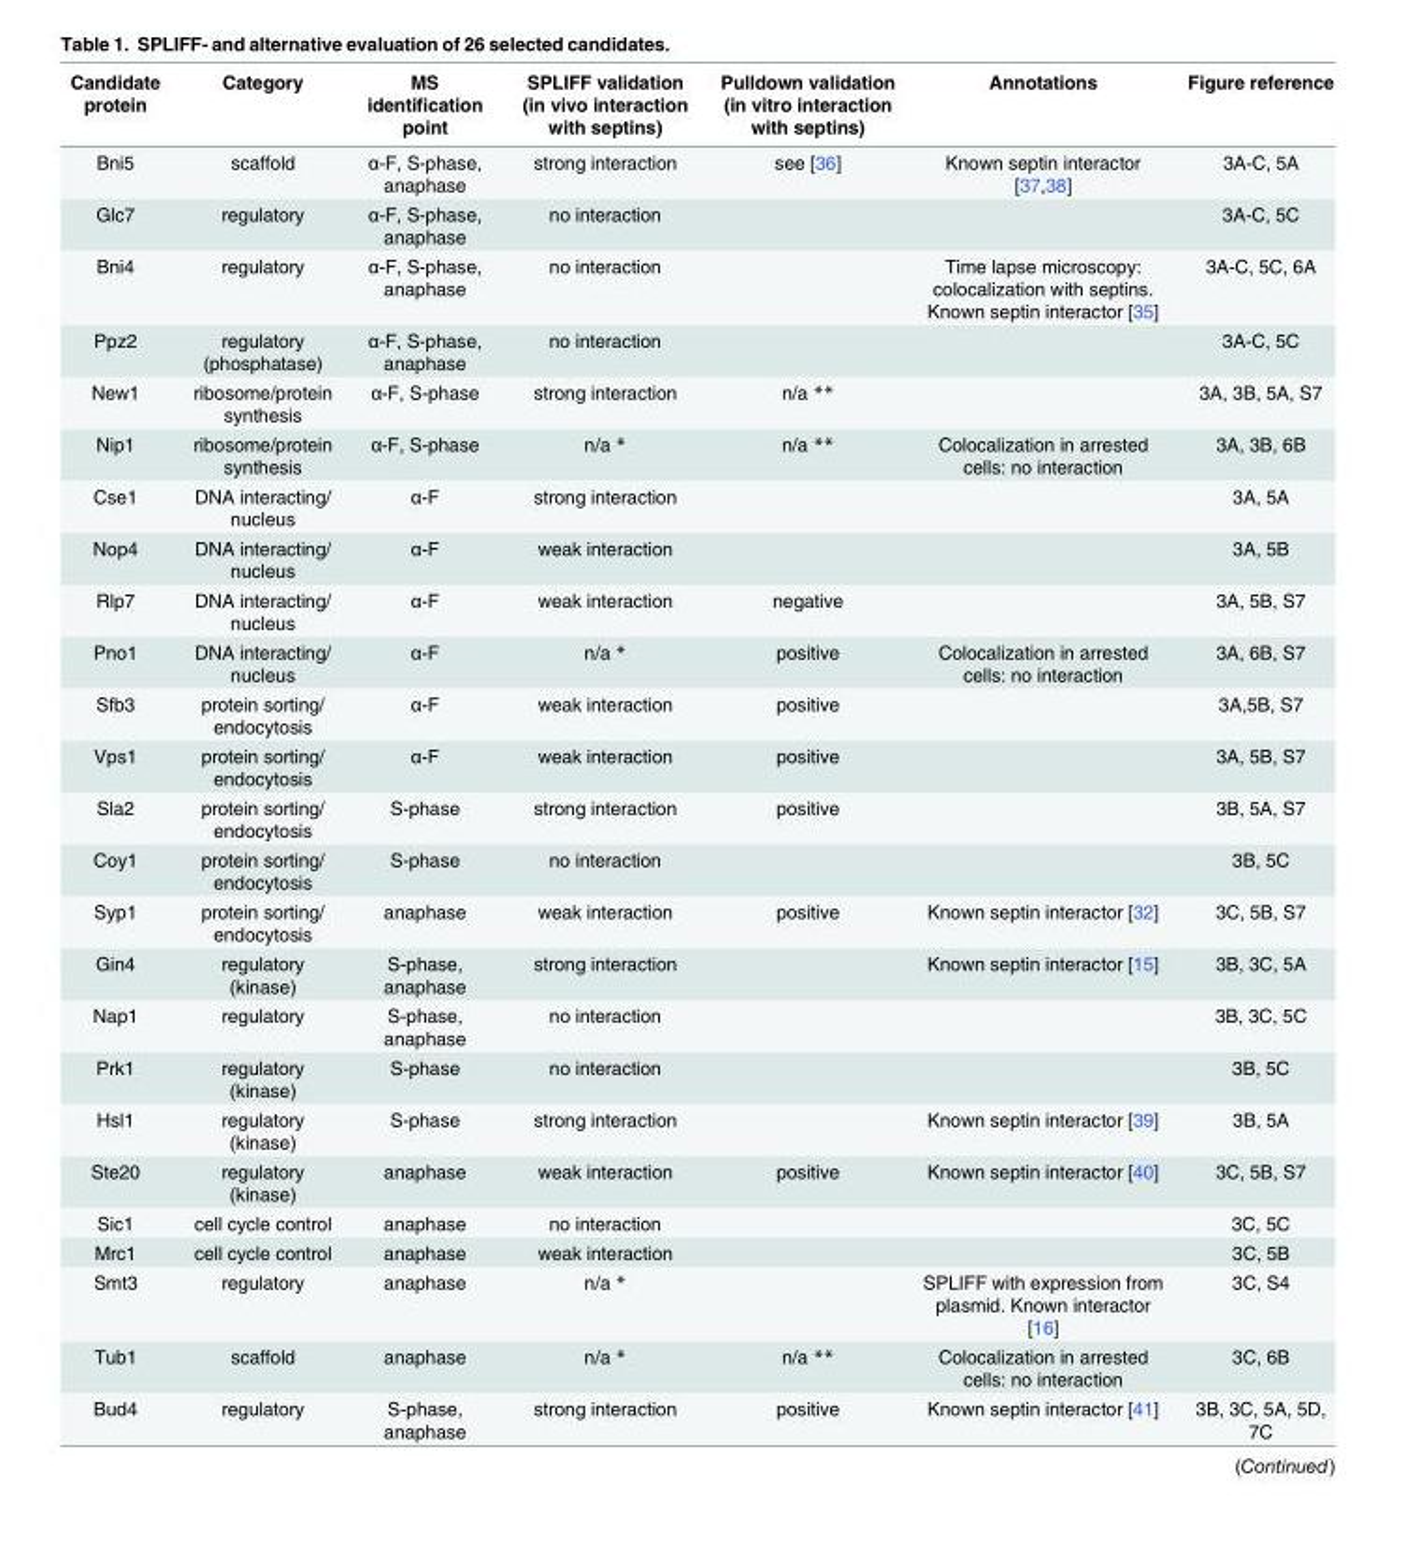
<table><thead><tr><td>Candidate protein</td><td>Category</td><td>MS identification point</td><td>SPLIFF validation (in vivo interaction with septins)</td><td>Pulldown validation (in vitro interaction with septins)</td><td>Annotations</td><td>Figure reference</td></tr></thead><tbody><tr><td>Bni5</td><td>scaffold</td><td>α-F, S-phase, anaphase</td><td>strong interaction</td><td>see [36]</td><td>Known septin interactor [37,38]</td><td>3A-C, 5A</td></tr><tr><td>Glc7</td><td>regulatory</td><td>α-F, S-phase, anaphase</td><td>no interaction</td><td></td><td></td><td>3A-C, 5C</td></tr><tr><td>Bni4</td><td>regulatory</td><td>α-F, S-phase, anaphase</td><td>no interaction</td><td></td><td>Time lapse microscopy: colocalization with septins. Known septin interactor [35]</td><td>3A-C, 5C, 6A</td></tr><tr><td>Ppz2</td><td>regulatory (phosphatase)</td><td>α-F, S-phase, anaphase</td><td>no interaction</td><td></td><td></td><td>3A-C, 5C</td></tr><tr><td>New1</td><td>ribosome/protein synthesis</td><td>α-F, S-phase</td><td>strong interaction</td><td>n/a **</td><td></td><td>3A, 3B, 5A, S7</td></tr><tr><td>Nip1</td><td>ribosome/protein synthesis</td><td>α-F, S-phase</td><td>n/a *</td><td>n/a **</td><td>Colocalization in arrested cells: no interaction</td><td>3A, 3B, 6B</td></tr><tr><td>Cse1</td><td>DNA interacting/ nucleus</td><td>α-F</td><td>strong interaction</td><td></td><td></td><td>3A, 5A</td></tr><tr><td>Nop4</td><td>DNA interacting/ nucleus</td><td>α-F</td><td>weak interaction</td><td></td><td></td><td>3A, 5B</td></tr><tr><td>Rlp7</td><td>DNA interacting/ nucleus</td><td>α-F</td><td>weak interaction</td><td>negative</td><td></td><td>3A, 5B, S7</td></tr><tr><td>Pno1</td><td>DNA interacting/ nucleus</td><td>α-F</td><td>n/a *</td><td>positive</td><td>Colocalization in arrested cells: no interaction</td><td>3A, 6B, S7</td></tr><tr><td>Sfb3</td><td>protein sorting/ endocytosis</td><td>α-F</td><td>weak interaction</td><td>positive</td><td></td><td>3A,5B, S7</td></tr><tr><td>Vps1</td><td>protein sorting/ endocytosis</td><td>α-F</td><td>weak interaction</td><td>positive</td><td></td><td>3A, 5B, S7</td></tr><tr><td>Sla2</td><td>protein sorting/ endocytosis</td><td>S-phase</td><td>strong interaction</td><td>positive</td><td></td><td>3B, 5A, S7</td></tr><tr><td>Coy1</td><td>protein sorting/ endocytosis</td><td>S-phase</td><td>no interaction</td><td></td><td></td><td>3B, 5C</td></tr><tr><td>Syp1</td><td>protein sorting/ endocytosis</td><td>anaphase</td><td>weak interaction</td><td>positive</td><td>Known septin interactor [32]</td><td>3C, 5B, S7</td></tr><tr><td>Gin4</td><td>regulatory (kinase)</td><td>S-phase, anaphase</td><td>strong interaction</td><td></td><td>Known septin interactor [15]</td><td>3B, 3C, 5A</td></tr><tr><td>Nap1</td><td>regulatory</td><td>S-phase, anaphase</td><td>no interaction</td><td></td><td></td><td>3B, 3C, 5C</td></tr><tr><td>Prk1</td><td>regulatory (kinase)</td><td>S-phase</td><td>no interaction</td><td></td><td></td><td>3B, 5C</td></tr><tr><td>Hsl1</td><td>regulatory (kinase)</td><td>S-phase</td><td>strong interaction</td><td></td><td>Known septin interactor [39]</td><td>3B, 5A</td></tr><tr><td>Ste20</td><td>regulatory (kinase)</td><td>anaphase</td><td>weak interaction</td><td>positive</td><td>Known septin interactor [40]</td><td>3C, 5B, S7</td></tr><tr><td>Sic1</td><td>cell cycle control</td><td>anaphase</td><td>no interaction</td><td></td><td></td><td>3C, 5C</td></tr><tr><td>Mrc1</td><td>cell cycle control</td><td>anaphase</td><td>weak interaction</td><td></td><td></td><td>3C, 5B</td></tr><tr><td>Smt3</td><td>regulatory</td><td>anaphase</td><td>n/a *</td><td></td><td>SPLIFF with expression from plasmid. Known interactor [16]</td><td>3C, S4</td></tr><tr><td>Tub1</td><td>scaffold</td><td>anaphase</td><td>n/a *</td><td>n/a **</td><td>Colocalization in arrested cells: no interaction</td><td>3C, 6B</td></tr><tr><td>Bud4</td><td>regulatory</td><td>S-phase, anaphase</td><td>strong interaction</td><td>positive</td><td>Known septin interactor [41]</td><td>3B, 3C, 5A, 5D, 7C</td></tr><tr><td></td><td></td><td></td><td></td><td></td><td></td><td>(Continued)</td></tr></tbody></table>